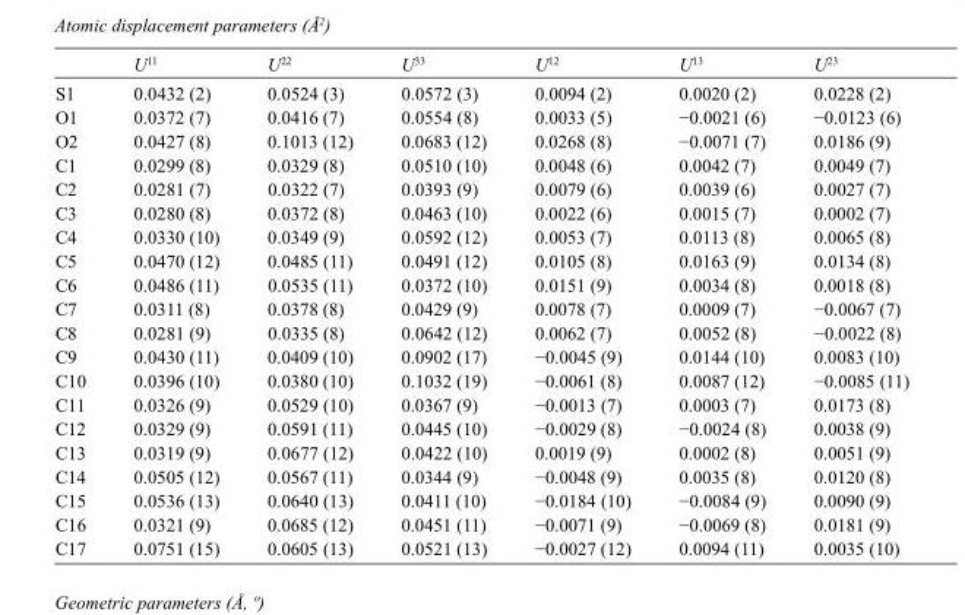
<table><thead><tr><td></td><td>U<sup>11</sup></td><td>U<sup>22</sup></td><td>U<sup>33</sup></td><td>U<sup>12</sup></td><td>U<sup>13</sup></td><td>U<sup>23</sup></td></tr></thead><tbody><tr><td>S1</td><td>0.0432 (2)</td><td>0.0524 (3)</td><td>0.0572 (3)</td><td>0.0094 (2)</td><td>0.0020 (2)</td><td>0.0228 (2)</td></tr><tr><td>O1</td><td>0.0372 (7)</td><td>0.0416 (7)</td><td>0.0554 (8)</td><td>0.0033 (5)</td><td>−0.0021 (6)</td><td>−0.0123 (6)</td></tr><tr><td>O2</td><td>0.0427 (8)</td><td>0.1013 (12)</td><td>0.0683 (12)</td><td>0.0268 (8)</td><td>−0.0071 (7)</td><td>0.0186 (9)</td></tr><tr><td>C1</td><td>0.0299 (8)</td><td>0.0329 (8)</td><td>0.0510 (10)</td><td>0.0048 (6)</td><td>0.0042 (7)</td><td>0.0049 (7)</td></tr><tr><td>C2</td><td>0.0281 (7)</td><td>0.0322 (7)</td><td>0.0393 (9)</td><td>0.0079 (6)</td><td>0.0039 (6)</td><td>0.0027 (7)</td></tr><tr><td>C3</td><td>0.0280 (8)</td><td>0.0372 (8)</td><td>0.0463 (10)</td><td>0.0022 (6)</td><td>0.0015 (7)</td><td>0.0002 (7)</td></tr><tr><td>C4</td><td>0.0330 (10)</td><td>0.0349 (9)</td><td>0.0592 (12)</td><td>0.0053 (7)</td><td>0.0113 (8)</td><td>0.0065 (8)</td></tr><tr><td>C5</td><td>0.0470 (12)</td><td>0.0485 (11)</td><td>0.0491 (12)</td><td>0.0105 (8)</td><td>0.0163 (9)</td><td>0.0134 (8)</td></tr><tr><td>C6</td><td>0.0486 (11)</td><td>0.0535 (11)</td><td>0.0372 (10)</td><td>0.0151 (9)</td><td>0.0034 (8)</td><td>0.0018 (8)</td></tr><tr><td>C7</td><td>0.0311 (8)</td><td>0.0378 (8)</td><td>0.0429 (9)</td><td>0.0078 (7)</td><td>0.0009 (7)</td><td>−0.0067 (7)</td></tr><tr><td>C8</td><td>0.0281 (9)</td><td>0.0335 (8)</td><td>0.0642 (12)</td><td>0.0062 (7)</td><td>0.0052 (8)</td><td>−0.0022 (8)</td></tr><tr><td>C9</td><td>0.0430 (11)</td><td>0.0409 (10)</td><td>0.0902 (17)</td><td>−0.0045 (9)</td><td>0.0144 (10)</td><td>0.0083 (10)</td></tr><tr><td>C10</td><td>0.0396 (10)</td><td>0.0380 (10)</td><td>0.1032 (19)</td><td>−0.0061 (8)</td><td>0.0087 (12)</td><td>−0.0085 (11)</td></tr><tr><td>C11</td><td>0.0326 (9)</td><td>0.0529 (10)</td><td>0.0367 (9)</td><td>−0.0013 (7)</td><td>0.0003 (7)</td><td>0.0173 (8)</td></tr><tr><td>C12</td><td>0.0329 (9)</td><td>0.0591 (11)</td><td>0.0445 (10)</td><td>−0.0029 (8)</td><td>−0.0024 (8)</td><td>0.0038 (9)</td></tr><tr><td>C13</td><td>0.0319 (9)</td><td>0.0677 (12)</td><td>0.0422 (10)</td><td>0.0019 (9)</td><td>0.0002 (8)</td><td>0.0051 (9)</td></tr><tr><td>C14</td><td>0.0505 (12)</td><td>0.0567 (11)</td><td>0.0344 (9)</td><td>−0.0048 (9)</td><td>0.0035 (8)</td><td>0.0120 (8)</td></tr><tr><td>C15</td><td>0.0536 (13)</td><td>0.0640 (13)</td><td>0.0411 (10)</td><td>−0.0184 (10)</td><td>−0.0084 (9)</td><td>0.0090 (9)</td></tr><tr><td>C16</td><td>0.0321 (9)</td><td>0.0685 (12)</td><td>0.0451 (11)</td><td>−0.0071 (9)</td><td>−0.0069 (8)</td><td>0.0181 (9)</td></tr><tr><td>C17</td><td>0.0751 (15)</td><td>0.0605 (13)</td><td>0.0521 (13)</td><td>−0.0027 (12)</td><td>0.0094 (11)</td><td>0.0035 (10)</td></tr></tbody></table>